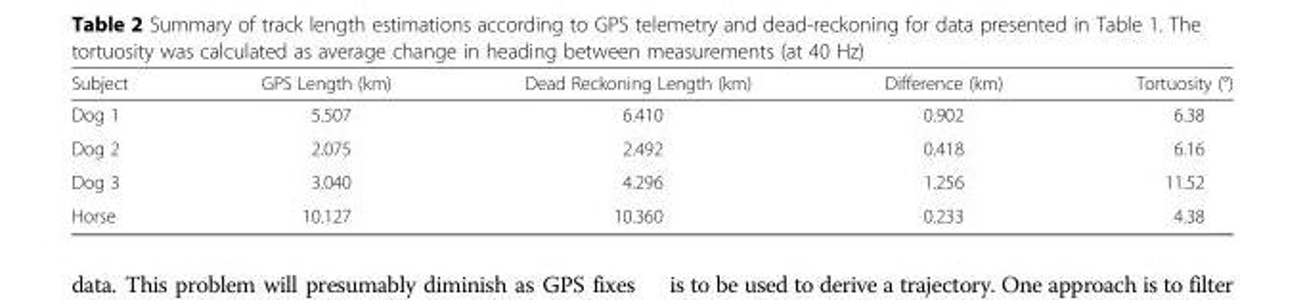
<table><thead><tr><td>Subject</td><td>GPS Length (km)</td><td>Dead Reckoning Length (km)</td><td>Difference (km)</td><td>Tortuosity (°)</td></tr></thead><tbody><tr><td>Dog 1</td><td>5.507</td><td>6.410</td><td>0.902</td><td>6.38</td></tr><tr><td>Dog 2</td><td>2.075</td><td>2.492</td><td>0.418</td><td>6.16</td></tr><tr><td>Dog 3</td><td>3.040</td><td>4.296</td><td>1.256</td><td>11.52</td></tr><tr><td>Horse</td><td>10.127</td><td>10.360</td><td>0.233</td><td>4.38</td></tr></tbody></table>